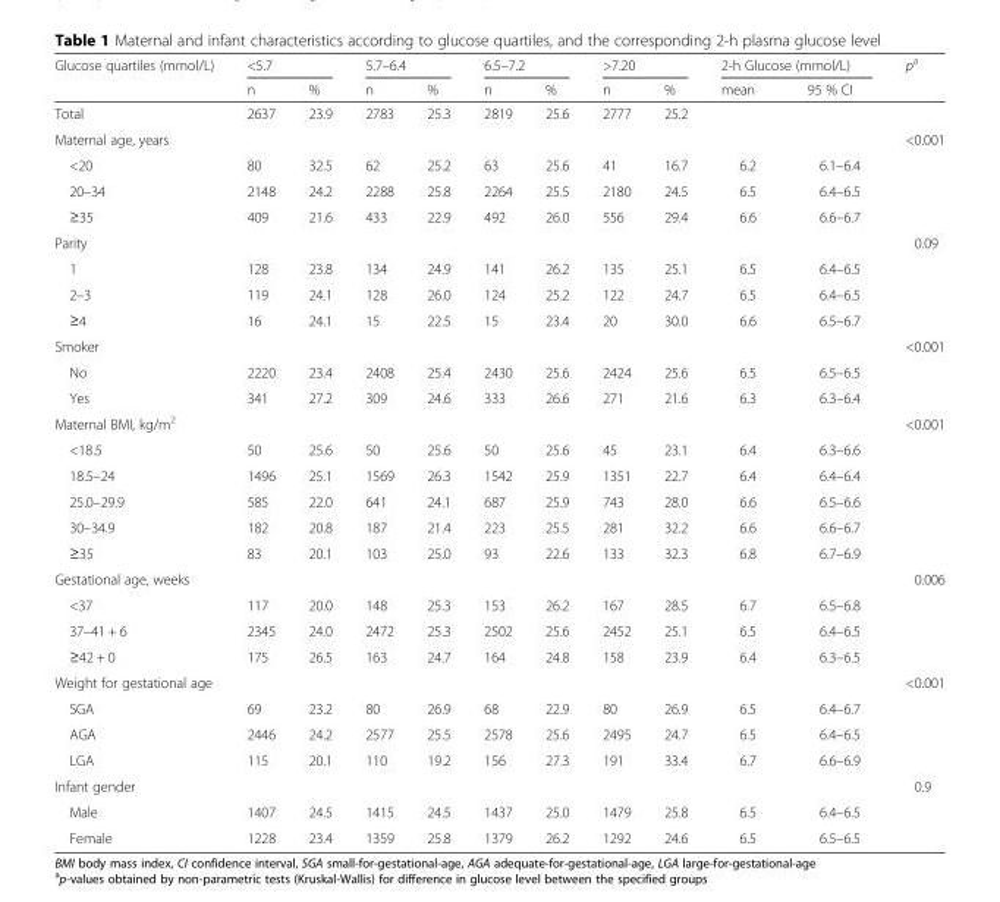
<table><thead><tr><td rowspan="2">Glucose quartiles (mmol/L)</td><td colspan="2">&lt;5.7</td><td colspan="2">5.7–6.4</td><td colspan="2">6.5–7.2</td><td colspan="2">&gt;7.20</td><td colspan="2">2-h Glucose (mmol/L)</td><td rowspan="2">p<sup>a</sup></td></tr><tr><td>n</td><td>%</td><td>n</td><td>%</td><td>n</td><td>%</td><td>n</td><td>%</td><td>mean</td><td>95 % CI</td></tr></thead><tbody><tr><td>Total</td><td>2637</td><td>23.9</td><td>2783</td><td>25.3</td><td>2819</td><td>25.6</td><td>2777</td><td>25.2</td><td></td><td></td><td></td></tr><tr><td>Maternal age, years</td><td></td><td></td><td></td><td></td><td></td><td></td><td></td><td></td><td></td><td></td><td>&lt;0.001</td></tr><tr><td>&lt;20</td><td>80</td><td>32.5</td><td>62</td><td>25.2</td><td>63</td><td>25.6</td><td>41</td><td>16.7</td><td>6.2</td><td>6.1–6.4</td><td></td></tr><tr><td>20–34</td><td>2148</td><td>24.2</td><td>2288</td><td>25.8</td><td>2264</td><td>25.5</td><td>2180</td><td>24.5</td><td>6.5</td><td>6.4–6.5</td><td></td></tr><tr><td>≥35</td><td>409</td><td>21.6</td><td>433</td><td>22.9</td><td>492</td><td>26.0</td><td>556</td><td>29.4</td><td>6.6</td><td>6.6–6.7</td><td></td></tr><tr><td>Parity</td><td></td><td></td><td></td><td></td><td></td><td></td><td></td><td></td><td></td><td></td><td>0.09</td></tr><tr><td>1</td><td>128</td><td>23.8</td><td>134</td><td>24.9</td><td>141</td><td>26.2</td><td>135</td><td>25.1</td><td>6.5</td><td>6.4–6.5</td><td></td></tr><tr><td>2–3</td><td>119</td><td>24.1</td><td>128</td><td>26.0</td><td>124</td><td>25.2</td><td>122</td><td>24.7</td><td>6.5</td><td>6.4–6.5</td><td></td></tr><tr><td>≥4</td><td>16</td><td>24.1</td><td>15</td><td>22.5</td><td>15</td><td>23.4</td><td>20</td><td>30.0</td><td>6.6</td><td>6.5–6.7</td><td></td></tr><tr><td>Smoker</td><td></td><td></td><td></td><td></td><td></td><td></td><td></td><td></td><td></td><td></td><td>&lt;0.001</td></tr><tr><td>No</td><td>2220</td><td>23.4</td><td>2408</td><td>25.4</td><td>2430</td><td>25.6</td><td>2424</td><td>25.6</td><td>6.5</td><td>6.5–6.5</td><td></td></tr><tr><td>Yes</td><td>341</td><td>27.2</td><td>309</td><td>24.6</td><td>333</td><td>26.6</td><td>271</td><td>21.6</td><td>6.3</td><td>6.3–6.4</td><td></td></tr><tr><td>Maternal BMI, kg/m<sup>2</sup></td><td></td><td></td><td></td><td></td><td></td><td></td><td></td><td></td><td></td><td></td><td>&lt;0.001</td></tr><tr><td>&lt;18.5</td><td>50</td><td>25.6</td><td>50</td><td>25.6</td><td>50</td><td>25.6</td><td>45</td><td>23.1</td><td>6.4</td><td>6.3–6.6</td><td></td></tr><tr><td>18.5–24</td><td>1496</td><td>25.1</td><td>1569</td><td>26.3</td><td>1542</td><td>25.9</td><td>1351</td><td>22.7</td><td>6.4</td><td>6.4–6.4</td><td></td></tr><tr><td>25.0–29.9</td><td>585</td><td>22.0</td><td>641</td><td>24.1</td><td>687</td><td>25.9</td><td>743</td><td>28.0</td><td>6.6</td><td>6.5–6.6</td><td></td></tr><tr><td>30–34.9</td><td>182</td><td>20.8</td><td>187</td><td>21.4</td><td>223</td><td>25.5</td><td>281</td><td>32.2</td><td>6.6</td><td>6.6–6.7</td><td></td></tr><tr><td>≥35</td><td>83</td><td>20.1</td><td>103</td><td>25.0</td><td>93</td><td>22.6</td><td>133</td><td>32.3</td><td>6.8</td><td>6.7–6.9</td><td></td></tr><tr><td>Gestational age, weeks</td><td></td><td></td><td></td><td></td><td></td><td></td><td></td><td></td><td></td><td></td><td>0.006</td></tr><tr><td>&lt;37</td><td>117</td><td>20.0</td><td>148</td><td>25.3</td><td>153</td><td>26.2</td><td>167</td><td>28.5</td><td>6.7</td><td>6.5–6.8</td><td></td></tr><tr><td>37–41 + 6</td><td>2345</td><td>24.0</td><td>2472</td><td>25.3</td><td>2502</td><td>25.6</td><td>2452</td><td>25.1</td><td>6.5</td><td>6.4–6.5</td><td></td></tr><tr><td>≥42 + 0</td><td>175</td><td>26.5</td><td>163</td><td>24.7</td><td>164</td><td>24.8</td><td>158</td><td>23.9</td><td>6.4</td><td>6.3–6.5</td><td></td></tr><tr><td>Weight for gestational age</td><td></td><td></td><td></td><td></td><td></td><td></td><td></td><td></td><td></td><td></td><td>&lt;0.001</td></tr><tr><td>SGA</td><td>69</td><td>23.2</td><td>80</td><td>26.9</td><td>68</td><td>22.9</td><td>80</td><td>26.9</td><td>6.5</td><td>6.4–6.7</td><td></td></tr><tr><td>AGA</td><td>2446</td><td>24.2</td><td>2577</td><td>25.5</td><td>2578</td><td>25.6</td><td>2495</td><td>24.7</td><td>6.5</td><td>6.4–6.5</td><td></td></tr><tr><td>LGA</td><td>115</td><td>20.1</td><td>110</td><td>19.2</td><td>156</td><td>27.3</td><td>191</td><td>33.4</td><td>6.7</td><td>6.6–6.9</td><td></td></tr><tr><td>Infant gender</td><td></td><td></td><td></td><td></td><td></td><td></td><td></td><td></td><td></td><td></td><td>0.9</td></tr><tr><td>Male</td><td>1407</td><td>24.5</td><td>1415</td><td>24.5</td><td>1437</td><td>25.0</td><td>1479</td><td>25.8</td><td>6.5</td><td>6.4–6.5</td><td></td></tr><tr><td>Female</td><td>1228</td><td>23.4</td><td>1359</td><td>25.8</td><td>1379</td><td>26.2</td><td>1292</td><td>24.6</td><td>6.5</td><td>6.5–6.5</td><td></td></tr></tbody></table>